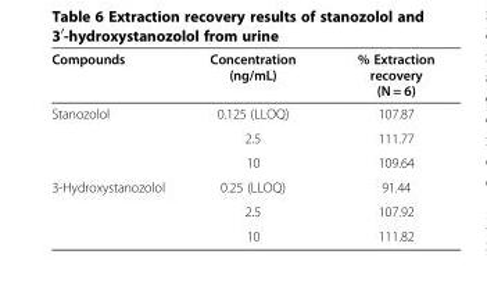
<table><thead><tr><td>Compounds</td><td>Concentration (ng/mL)</td><td>% Extraction recovery (N = 6)</td></tr></thead><tbody><tr><td rowspan="3">Stanozolol</td><td>0.125 (LLOQ)</td><td>107.87</td></tr><tr><td>2.5</td><td>111.77</td></tr><tr><td>10</td><td>109.64</td></tr><tr><td rowspan="3">3-Hydroxystanozolol</td><td>0.25 (LLOQ)</td><td>91.44</td></tr><tr><td>2.5</td><td>107.92</td></tr><tr><td>10</td><td>111.82</td></tr></tbody></table>